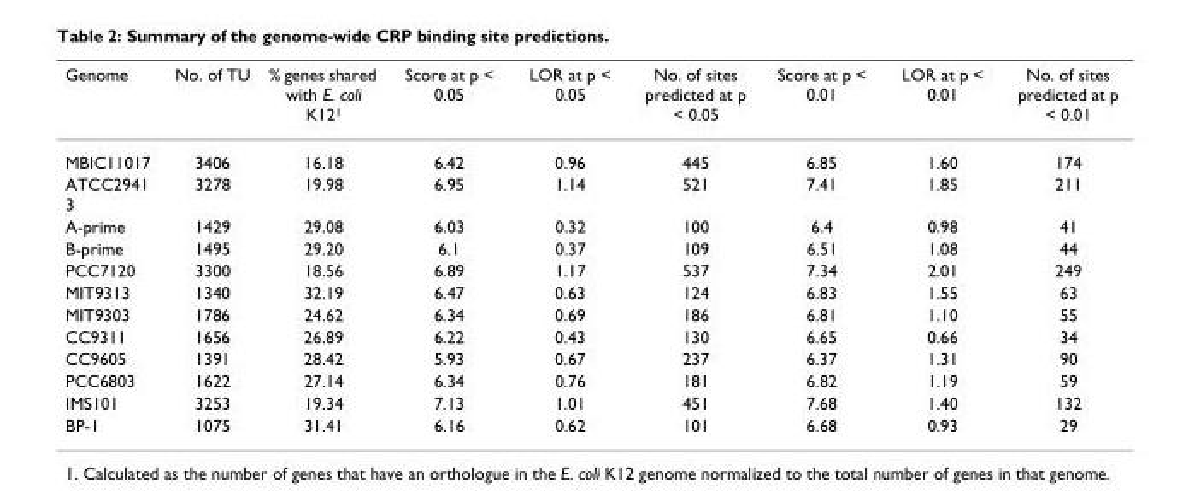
<table><thead><tr><td>Genome</td><td>No. of TU</td><td>% genes shared with E. coli K12<sup>1</sup></td><td>Score at p &lt; 0.05</td><td>LOR at p &lt; 0.05</td><td>No. of sites predicted at p &lt; 0.05</td><td>Score at p &lt; 0.01</td><td>LOR at p &lt; 0.01</td><td>No. of sites predicted at p &lt; 0.01</td></tr></thead><tbody><tr><td>MBIC11017</td><td>3406</td><td>16.18</td><td>6.42</td><td>0.96</td><td>445</td><td>6.85</td><td>1.60</td><td>174</td></tr><tr><td>ATCC2941 3</td><td>3278</td><td>19.98</td><td>6.95</td><td>1.14</td><td>521</td><td>7.41</td><td>1.85</td><td>211</td></tr><tr><td>A-prime</td><td>1429</td><td>29.08</td><td>6.03</td><td>0.32</td><td>100</td><td>6.4</td><td>0.98</td><td>41</td></tr><tr><td>B-prime</td><td>1495</td><td>29.20</td><td>6.1</td><td>0.37</td><td>109</td><td>6.51</td><td>1.08</td><td>44</td></tr><tr><td>PCC7120</td><td>3300</td><td>18.56</td><td>6.89</td><td>1.17</td><td>537</td><td>7.34</td><td>2.01</td><td>249</td></tr><tr><td>MIT9313</td><td>1340</td><td>32.19</td><td>6.47</td><td>0.63</td><td>124</td><td>6.83</td><td>1.55</td><td>63</td></tr><tr><td>MIT9303</td><td>1786</td><td>24.62</td><td>6.34</td><td>0.69</td><td>186</td><td>6.81</td><td>1.10</td><td>55</td></tr><tr><td>CC9311</td><td>1656</td><td>26.89</td><td>6.22</td><td>0.43</td><td>130</td><td>6.65</td><td>0.66</td><td>34</td></tr><tr><td>CC9605</td><td>1391</td><td>28.42</td><td>5.93</td><td>0.67</td><td>237</td><td>6.37</td><td>1.31</td><td>90</td></tr><tr><td>PCC6803</td><td>1622</td><td>27.14</td><td>6.34</td><td>0.76</td><td>181</td><td>6.82</td><td>1.19</td><td>59</td></tr><tr><td>IMS101</td><td>3253</td><td>19.34</td><td>7.13</td><td>1.01</td><td>451</td><td>7.68</td><td>1.40</td><td>132</td></tr><tr><td>BP-1</td><td>1075</td><td>31.41</td><td>6.16</td><td>0.62</td><td>101</td><td>6.68</td><td>0.93</td><td>29</td></tr></tbody></table>